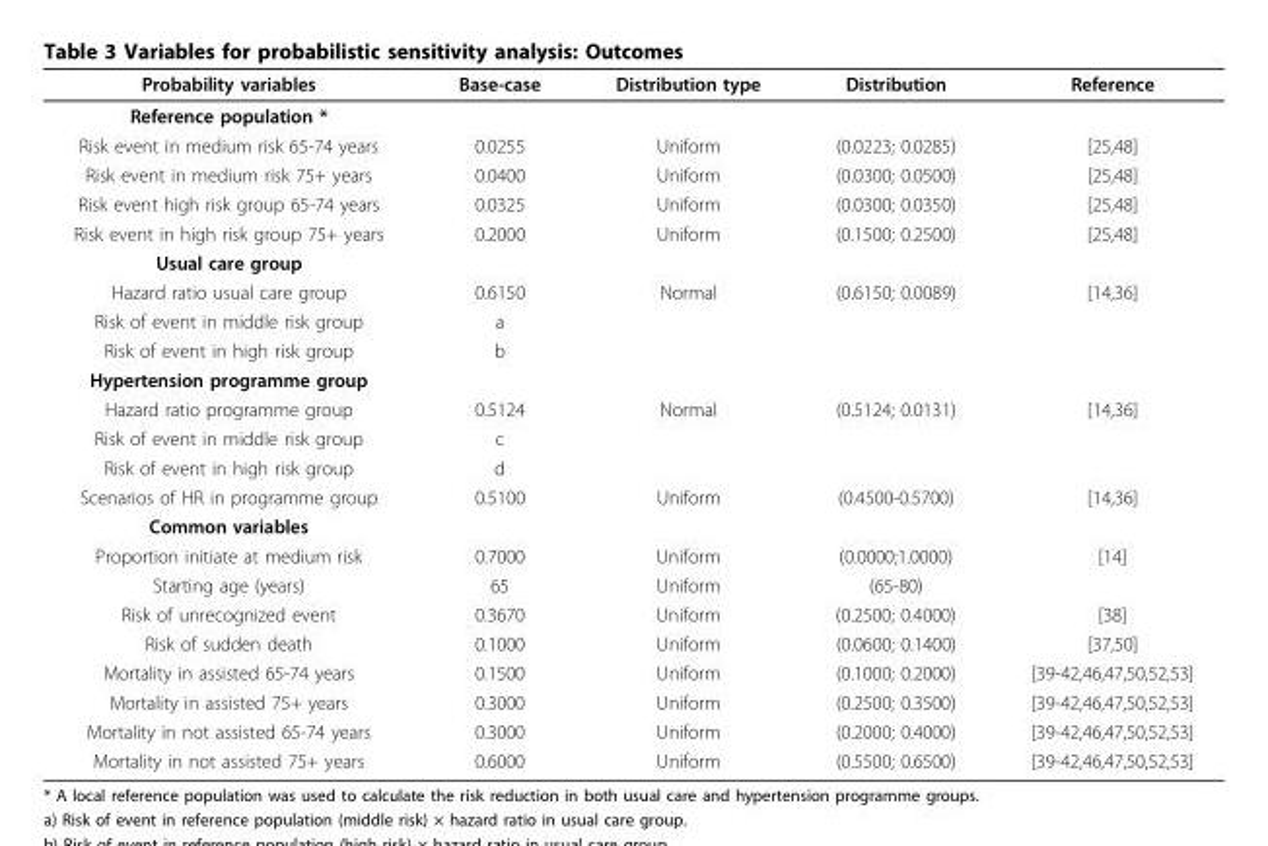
<table><thead><tr><td>Probability variables</td><td>Base-case</td><td>Distribution type</td><td>Distribution</td><td>Reference</td></tr></thead><tbody><tr><td colspan="5">Reference population *</td></tr><tr><td>Risk event in medium risk 65-74 years</td><td>0.0255</td><td>Uniform</td><td>(0.0223; 0.0285)</td><td>[25,48]</td></tr><tr><td>Risk event in medium risk 75+ years</td><td>0.0400</td><td>Uniform</td><td>(0.0300; 0.0500)</td><td>[25,48]</td></tr><tr><td>Risk event high risk group 65-74 years</td><td>0.0325</td><td>Uniform</td><td>(0.0300; 0.0350)</td><td>[25,48]</td></tr><tr><td>Risk event in high risk group 75+ years</td><td>0.2000</td><td>Uniform</td><td>(0.1500; 0.2500)</td><td>[25,48]</td></tr><tr><td colspan="5">Usual care group</td></tr><tr><td>Hazard ratio usual care group</td><td>0.6150</td><td>Normal</td><td>(0.6150; 0.0089)</td><td>[14,36]</td></tr><tr><td>Risk of event in middle risk group</td><td>a</td><td></td><td></td><td></td></tr><tr><td>Risk of event in high risk group</td><td>b</td><td></td><td></td><td></td></tr><tr><td colspan="5">Hypertension programme group</td></tr><tr><td>Hazard ratio programme group</td><td>0.5124</td><td>Normal</td><td>(0.5124; 0.0131)</td><td>[14,36]</td></tr><tr><td>Risk of event in middle risk group</td><td>c</td><td></td><td></td><td></td></tr><tr><td>Risk of event in high risk group</td><td>d</td><td></td><td></td><td></td></tr><tr><td>Scenarios of HR in programme group</td><td>0.5100</td><td>Uniform</td><td>(0.4500-0.5700)</td><td>[14,36]</td></tr><tr><td colspan="5">Common variables</td></tr><tr><td>Proportion initiate at medium risk</td><td>0.7000</td><td>Uniform</td><td>(0.0000;1.0000)</td><td>[14]</td></tr><tr><td>Starting age (years)</td><td>65</td><td>Uniform</td><td>(65-80)</td><td></td></tr><tr><td>Risk of unrecognized event</td><td>0.3670</td><td>Uniform</td><td>(0.2500; 0.4000)</td><td>[38]</td></tr><tr><td>Risk of sudden death</td><td>0.1000</td><td>Uniform</td><td>(0.0600; 0.1400)</td><td>[37,50]</td></tr><tr><td>Mortality in assisted 65-74 years</td><td>0.1500</td><td>Uniform</td><td>(0.1000; 0.2000)</td><td>[39-42,46,47,50,52,53]</td></tr><tr><td>Mortality in assisted 75+ years</td><td>0.3000</td><td>Uniform</td><td>(0.2500; 0.3500)</td><td>[39-42,46,47,50,52,53]</td></tr><tr><td>Mortality in not assisted 65-74 years</td><td>0.3000</td><td>Uniform</td><td>(0.2000; 0.4000)</td><td>[39-42,46,47,50,52,53]</td></tr><tr><td>Mortality in not assisted 75+ years</td><td>0.6000</td><td>Uniform</td><td>(0.5500; 0.6500)</td><td>[39-42,46,47,50,52,53]</td></tr></tbody></table>